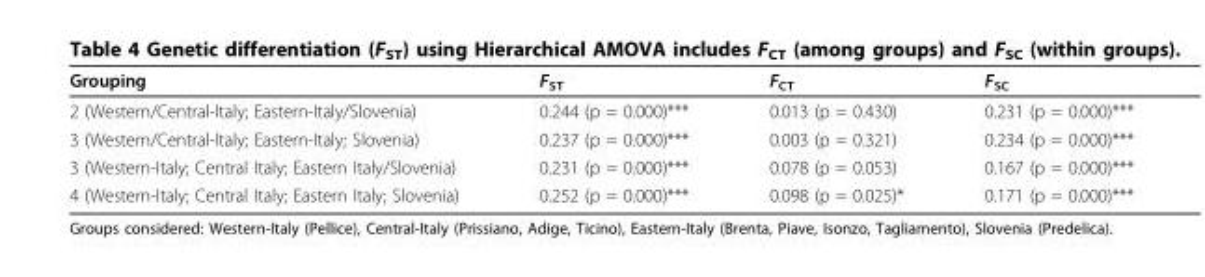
<table><thead><tr><td>Grouping</td><td>F<sub>ST</sub></td><td>F<sub>CT</sub></td><td>F<sub>SC</sub></td></tr></thead><tbody><tr><td>2 (Western/Central-Italy; Eastern-Italy/Slovenia)</td><td>0.244 (p = 0.000)***</td><td>0.013 (p = 0.430)</td><td>0.231 (p = 0.000)***</td></tr><tr><td>3 (Western/Central-Italy; Eastern-Italy; Slovenia)</td><td>0.237 (p = 0.000)***</td><td>0.003 (p = 0.321)</td><td>0.234 (p = 0.000)***</td></tr><tr><td>3 (Western-Italy; Central Italy; Eastern Italy/Slovenia)</td><td>0.231 (p = 0.000)***</td><td>0.078 (p = 0.053)</td><td>0.167 (p = 0.000)***</td></tr><tr><td>4 (Western-Italy; Central Italy; Eastern Italy; Slovenia)</td><td>0.252 (p = 0.000)***</td><td>0.098 (p = 0.025)*</td><td>0.171 (p = 0.000)***</td></tr></tbody></table>